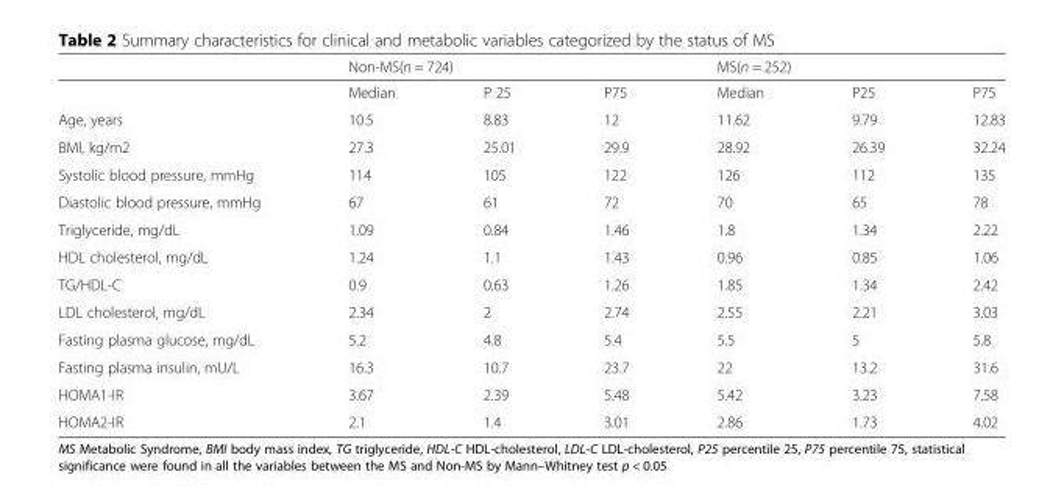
<table><thead><tr><td rowspan="2"></td><td colspan="3">Non-MS(n = 724)</td><td colspan="3">MS(n = 252)</td></tr><tr><td>Median</td><td>P 25</td><td>P75</td><td>Median</td><td>P25</td><td>P75</td></tr></thead><tbody><tr><td>Age, years</td><td>10.5</td><td>8.83</td><td>12</td><td>11.62</td><td>9.79</td><td>12.83</td></tr><tr><td>BMI, kg/m2</td><td>27.3</td><td>25.01</td><td>29.9</td><td>28.92</td><td>26.39</td><td>32.24</td></tr><tr><td>Systolic blood pressure, mmHg</td><td>114</td><td>105</td><td>122</td><td>126</td><td>112</td><td>135</td></tr><tr><td>Diastolic blood pressure, mmHg</td><td>67</td><td>61</td><td>72</td><td>70</td><td>65</td><td>78</td></tr><tr><td>Triglyceride, mg/dL</td><td>1.09</td><td>0.84</td><td>1.46</td><td>1.8</td><td>1.34</td><td>2.22</td></tr><tr><td>HDL cholesterol, mg/dL</td><td>1.24</td><td>1.1</td><td>1.43</td><td>0.96</td><td>0.85</td><td>1.06</td></tr><tr><td>TG/HDL-C</td><td>0.9</td><td>0.63</td><td>1.26</td><td>1.85</td><td>1.34</td><td>2.42</td></tr><tr><td>LDL cholesterol, mg/dL</td><td>2.34</td><td>2</td><td>2.74</td><td>2.55</td><td>2.21</td><td>3.03</td></tr><tr><td>Fasting plasma glucose, mg/dL</td><td>5.2</td><td>4.8</td><td>5.4</td><td>5.5</td><td>5</td><td>5.8</td></tr><tr><td>Fasting plasma insulin, mU/L</td><td>16.3</td><td>10.7</td><td>23.7</td><td>22</td><td>13.2</td><td>31.6</td></tr><tr><td>HOMA1-IR</td><td>3.67</td><td>2.39</td><td>5.48</td><td>5.42</td><td>3.23</td><td>7.58</td></tr><tr><td>HOMA2-IR</td><td>2.1</td><td>1.4</td><td>3.01</td><td>2.86</td><td>1.73</td><td>4.02</td></tr></tbody></table>